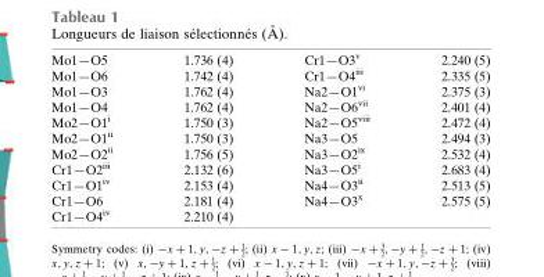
<table><tbody><tr><td>Mo1—O5</td><td>1.736 (4)</td><td>Cr1—O3<sup>v</sup></td><td>2.240 (5)</td></tr><tr><td>Mo1—O6</td><td>1.742 (4)</td><td>Cr1—O4<sup>iii</sup></td><td>2.335 (5)</td></tr><tr><td>Mo1—O3</td><td>1.762 (4)</td><td>Na2—O1<sup>vi</sup></td><td>2.375 (3)</td></tr><tr><td>Mo1—O4</td><td>1.762 (4)</td><td>Na2—O6<sup>vii</sup></td><td>2.401 (4)</td></tr><tr><td>Mo2—O1<sup>i</sup></td><td>1.750 (3)</td><td>Na2—O5<sup>viii</sup></td><td>2.472 (4)</td></tr><tr><td>Mo2—O1<sup>ii</sup></td><td>1.750 (3)</td><td>Na3—O5</td><td>2.494 (3)</td></tr><tr><td>Mo2—O2<sup>ii</sup></td><td>1.756 (5)</td><td>Na3—O2<sup>ix</sup></td><td>2.532 (4)</td></tr><tr><td>Cr1—O2<sup>iii</sup></td><td>2.132 (6)</td><td>Na3—O5<sup>i</sup></td><td>2.683 (4)</td></tr><tr><td>Cr1—O1<sup>iv</sup></td><td>2.153 (4)</td><td>Na4—O3<sup>ii</sup></td><td>2.513 (5)</td></tr><tr><td>Cr1—O6</td><td>2.181 (4)</td><td>Na4—O3<sup>x</sup></td><td>2.575 (5)</td></tr><tr><td>Cr1—O4<sup>iv</sup></td><td>2.210 (4)</td><td></td><td></td></tr></tbody></table>